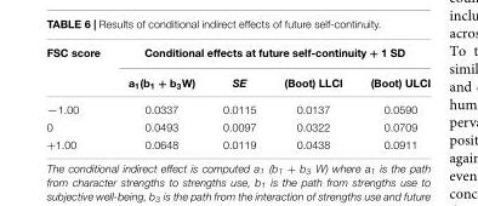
<table><thead><tr><td rowspan="2">FSC score</td><td colspan="4">Conditional effects at future self-continuity + 1 SD</td></tr><tr><td>a<sub>1</sub>(b<sub>1</sub> + b<sub>3</sub>W)</td><td>SE</td><td>(Boot) LLCI</td><td>(Boot) ULCI</td></tr></thead><tbody><tr><td>—1.00</td><td>0.0337</td><td>0.0115</td><td>0.0137</td><td>0.0590</td></tr><tr><td>0</td><td>0.0493</td><td>0.0097</td><td>0.0322</td><td>0.0709</td></tr><tr><td>+1.00</td><td>0.0648</td><td>0.0119</td><td>0.0438</td><td>0.0911</td></tr></tbody></table>